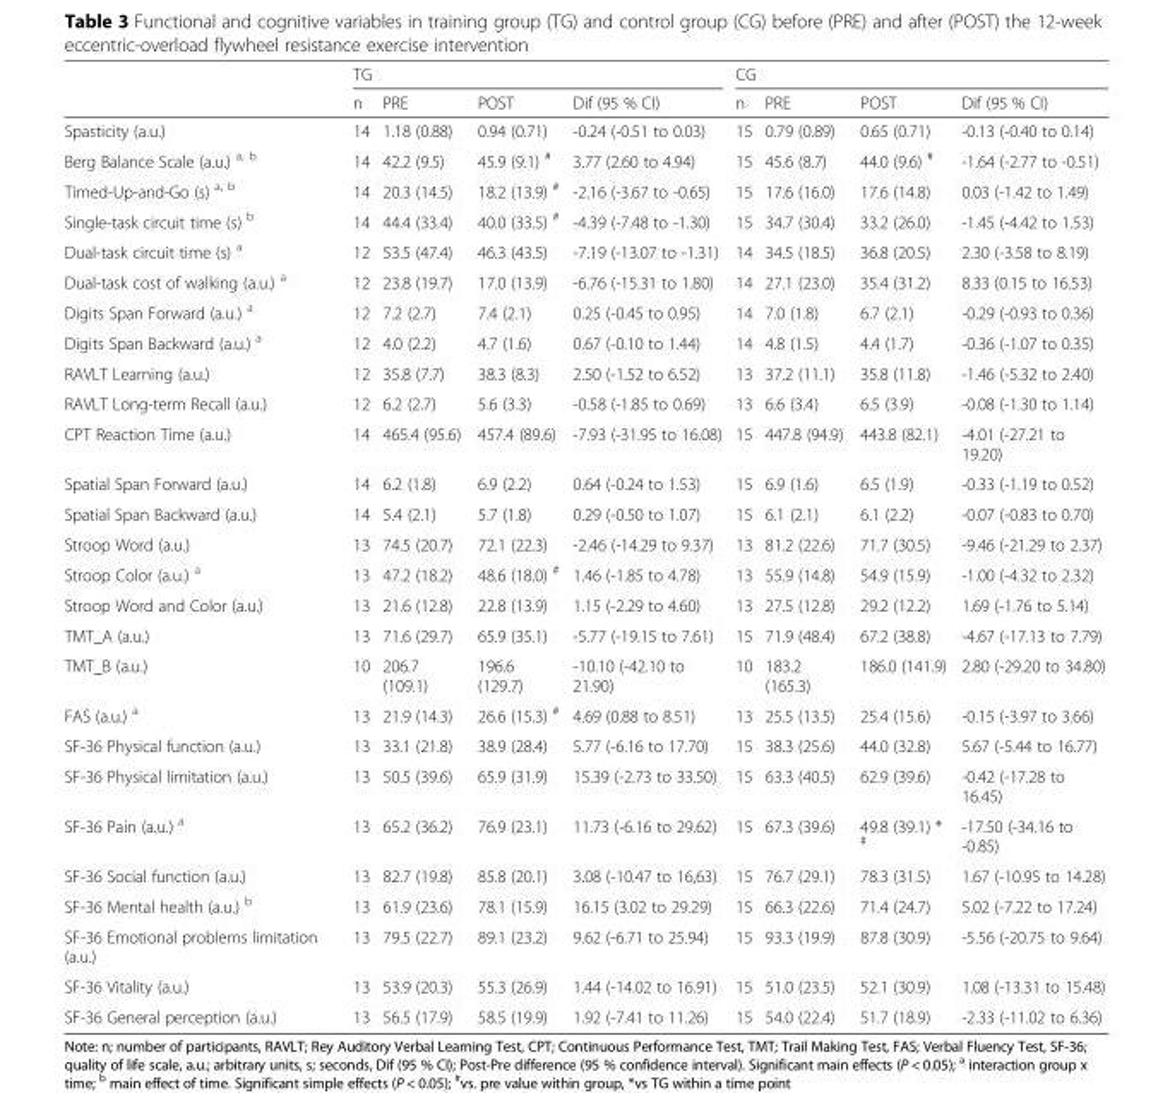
<table><thead><tr><td rowspan="2"></td><td colspan="4">TG</td><td colspan="4">CG</td></tr><tr><td>n</td><td>PRE</td><td>POST</td><td>Dif (95 % CI)</td><td>n</td><td>PRE</td><td>POST</td><td>Dif (95 % CI)</td></tr></thead><tbody><tr><td>Spasticity (a.u.)</td><td>14</td><td>1.18 (0.88)</td><td>0.94 (0.71)</td><td>-0.24 (-0.51 to 0.03)</td><td>15</td><td>0.79 (0.89)</td><td>0.65 (0.71)</td><td>-0.13 (-0.40 to 0.14)</td></tr><tr><td>Berg Balance Scale (a.u.) <sup>a, b</sup></td><td>14</td><td>42.2 (9.5)</td><td>45.9 (9.1) <sup>#</sup></td><td>3.77 (2.60 to 4.94)</td><td>15</td><td>45.6 (8.7)</td><td>44.0 (9.6) <sup>#</sup></td><td>-1.64 (-2.77 to -0.51)</td></tr><tr><td>Timed-Up-and-Go (s) <sup>a, b</sup></td><td>14</td><td>20.3 (14.5)</td><td>18.2 (13.9) <sup>#</sup></td><td>-2.16 (-3.67 to -0.65)</td><td>15</td><td>17.6 (16.0)</td><td>17.6 (14.8)</td><td>0.03 (-1.42 to 1.49)</td></tr><tr><td>Single-task circuit time (s) <sup>b</sup></td><td>14</td><td>44.4 (33.4)</td><td>40.0 (33.5) <sup>#</sup></td><td>-4.39 (-7.48 to -1.30)</td><td>15</td><td>34.7 (30.4)</td><td>33.2 (26.0)</td><td>-1.45 (-4.42 to 1.53)</td></tr><tr><td>Dual-task circuit time (s) <sup>a</sup></td><td>12</td><td>53.5 (47.4)</td><td>46.3 (43.5)</td><td>-7.19 (-13.07 to -1.31)</td><td>14</td><td>34.5 (18.5)</td><td>36.8 (20.5)</td><td>2.30 (-3.58 to 8.19)</td></tr><tr><td>Dual-task cost of walking (a.u.) <sup>a</sup></td><td>12</td><td>23.8 (19.7)</td><td>17.0 (13.9)</td><td>-6.76 (-15.31 to 1.80)</td><td>14</td><td>27.1 (23.0)</td><td>35.4 (31.2)</td><td>8.33 (0.15 to 16.53)</td></tr><tr><td>Digits Span Forward (a.u.) <sup>a</sup></td><td>12</td><td>7.2 (2.7)</td><td>7.4 (2.1)</td><td>0.25 (-0.45 to 0.95)</td><td>14</td><td>7.0 (1.8)</td><td>6.7 (2.1)</td><td>-0.29 (-0.93 to 0.36)</td></tr><tr><td>Digits Span Backward (a.u.) <sup>a</sup></td><td>12</td><td>4.0 (2.2)</td><td>4.7 (1.6)</td><td>0.67 (-0.10 to 1.44)</td><td>14</td><td>4.8 (1.5)</td><td>4.4 (1.7)</td><td>-0.36 (-1.07 to 0.35)</td></tr><tr><td>RAVLT Learning (a.u.)</td><td>12</td><td>35.8 (7.7)</td><td>38.3 (8.3)</td><td>2.50 (-1.52 to 6.52)</td><td>13</td><td>37.2 (11.1)</td><td>35.8 (11.8)</td><td>-1.46 (-5.32 to 2.40)</td></tr><tr><td>RAVLT Long-term Recall (a.u.)</td><td>12</td><td>6.2 (2.7)</td><td>5.6 (3.3)</td><td>-0.58 (-1.85 to 0.69)</td><td>13</td><td>6.6 (3.4)</td><td>6.5 (3.9)</td><td>-0.08 (-1.30 to 1.14)</td></tr><tr><td>CPT Reaction Time (a.u.)</td><td>14</td><td>465.4 (95.6)</td><td>457.4 (89.6)</td><td>-7.93 (-31.95 to 16.08)</td><td>15</td><td>447.8 (94.9)</td><td>443.8 (82.1)</td><td>-4.01 (-27.21 to 19.20)</td></tr><tr><td>Spatial Span Forward (a.u.)</td><td>14</td><td>6.2 (1.8)</td><td>6.9 (2.2)</td><td>0.64 (-0.24 to 1.53)</td><td>15</td><td>6.9 (1.6)</td><td>6.5 (1.9)</td><td>-0.33 (-1.19 to 0.52)</td></tr><tr><td>Spatial Span Backward (a.u.)</td><td>14</td><td>5.4 (2.1)</td><td>5.7 (1.8)</td><td>0.29 (-0.50 to 1.07)</td><td>15</td><td>6.1 (2.1)</td><td>6.1 (2.2)</td><td>-0.07 (-0.83 to 0.70)</td></tr><tr><td>Stroop Word (a.u.)</td><td>13</td><td>74.5 (20.7)</td><td>72.1 (22.3)</td><td>-2.46 (-14.29 to 9.37)</td><td>13</td><td>81.2 (22.6)</td><td>71.7 (30.5)</td><td>-9.46 (-21.29 to 2.37)</td></tr><tr><td>Stroop Color (a.u.) <sup>a</sup></td><td>13</td><td>47.2 (18.2)</td><td>48.6 (18.0) <sup>#</sup></td><td>1.46 (-1.85 to 4.78)</td><td>13</td><td>55.9 (14.8)</td><td>54.9 (15.9)</td><td>-1.00 (-4.32 to 2.32)</td></tr><tr><td>Stroop Word and Color (a.u.)</td><td>13</td><td>21.6 (12.8)</td><td>22.8 (13.9)</td><td>1.15 (-2.29 to 4.60)</td><td>13</td><td>27.5 (12.8)</td><td>29.2 (12.2)</td><td>1.69 (-1.76 to 5.14)</td></tr><tr><td>TMT_A (a.u.)</td><td>13</td><td>71.6 (29.7)</td><td>65.9 (35.1)</td><td>-5.77 (-19.15 to 7.61)</td><td>15</td><td>71.9 (48.4)</td><td>67.2 (38.8)</td><td>-4.67 (-17.13 to 7.79)</td></tr><tr><td>TMT_B (a.u.)</td><td>10</td><td>206.7 (109.1)</td><td>196.6 (129.7)</td><td>-10.10 (-42.10 to 21.90)</td><td>10</td><td>183.2 (165.3)</td><td>186.0 (141.9)</td><td>2.80 (-29.20 to 34.80)</td></tr><tr><td>FAS (a.u.) <sup>a</sup></td><td>13</td><td>21.9 (14.3)</td><td>26.6 (15.3) <sup>#</sup></td><td>4.69 (0.88 to 8.51)</td><td>13</td><td>25.5 (13.5)</td><td>25.4 (15.6)</td><td>-0.15 (-3.97 to 3.66)</td></tr><tr><td>SF-36 Physical function (a.u.)</td><td>13</td><td>33.1 (21.8)</td><td>38.9 (28.4)</td><td>5.77 (-6.16 to 17.70)</td><td>15</td><td>38.3 (25.6)</td><td>44.0 (32.8)</td><td>5.67 (-5.44 to 16.77)</td></tr><tr><td>SF-36 Physical limitation (a.u.)</td><td>13</td><td>50.5 (39.6)</td><td>65.9 (31.9)</td><td>15.39 (-2.73 to 33.50)</td><td>15</td><td>63.3 (40.5)</td><td>62.9 (39.6)</td><td>-0.42 (-17.28 to 16.45)</td></tr><tr><td>SF-36 Pain (a.u.) <sup>a</sup></td><td>13</td><td>65.2 (36.2)</td><td>76.9 (23.1)</td><td>11.73 (-6.16 to 29.62)</td><td>15</td><td>67.3 (39.6)</td><td>49.8 (39.1) * <sup>#</sup></td><td>-17.50 (-34.16 to -0.85)</td></tr><tr><td>SF-36 Social function (a.u.)</td><td>13</td><td>82.7 (19.8)</td><td>85.8 (20.1)</td><td>3.08 (-10.47 to 16,63)</td><td>15</td><td>76.7 (29.1)</td><td>78.3 (31.5)</td><td>1.67 (-10.95 to 14.28)</td></tr><tr><td>SF-36 Mental health (a.u.) <sup>b</sup></td><td>13</td><td>61.9 (23.6)</td><td>78.1 (15.9)</td><td>16.15 (3.02 to 29.29)</td><td>15</td><td>66.3 (22.6)</td><td>71.4 (24.7)</td><td>5.02 (-7.22 to 17.24)</td></tr><tr><td>SF-36 Emotional problems limitation (a.u.)</td><td>13</td><td>79.5 (22.7)</td><td>89.1 (23.2)</td><td>9.62 (-6.71 to 25.94)</td><td>15</td><td>93.3 (19.9)</td><td>87.8 (30.9)</td><td>-5.56 (-20.75 to 9.64)</td></tr><tr><td>SF-36 Vitality (a.u.)</td><td>13</td><td>53.9 (20.3)</td><td>55.3 (26.9)</td><td>1.44 (-14.02 to 16.91)</td><td>15</td><td>51.0 (23.5)</td><td>52.1 (30.9)</td><td>1.08 (-13.31 to 15.48)</td></tr><tr><td>SF-36 General perception (a.u.)</td><td>13</td><td>56.5 (17.9)</td><td>58.5 (19.9)</td><td>1.92 (-7.41 to 11.26)</td><td>15</td><td>54.0 (22.4)</td><td>51.7 (18.9)</td><td>-2.33 (-11.02 to 6.36)</td></tr></tbody></table>